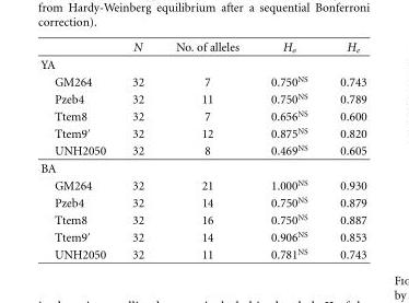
<table><thead><tr><td></td><td>N</td><td>No. of alleles</td><td>H<sub>o</sub></td><td>H<sub>e</sub></td></tr></thead><tbody><tr><td colspan="5">YA</td></tr><tr><td>GM264</td><td>32</td><td>7</td><td>0.750<sup>NS</sup></td><td>0.743</td></tr><tr><td>Pzeb4</td><td>32</td><td>11</td><td>0.750<sup>NS</sup></td><td>0.789</td></tr><tr><td>Ttem8</td><td>32</td><td>7</td><td>0.656<sup>NS</sup></td><td>0.600</td></tr><tr><td>Ttem9′</td><td>32</td><td>12</td><td>0.875<sup>NS</sup></td><td>0.820</td></tr><tr><td>UNH2050</td><td>32</td><td>8</td><td>0.469<sup>NS</sup></td><td>0.605</td></tr><tr><td colspan="5">BA</td></tr><tr><td>GM264</td><td>32</td><td>21</td><td>1.000<sup>NS</sup></td><td>0.930</td></tr><tr><td>Pzeb4</td><td>32</td><td>14</td><td>0.750<sup>NS</sup></td><td>0.879</td></tr><tr><td>Ttem8</td><td>32</td><td>16</td><td>0.750<sup>NS</sup></td><td>0.887</td></tr><tr><td>Ttem9′</td><td>32</td><td>14</td><td>0.906<sup>NS</sup></td><td>0.853</td></tr><tr><td>UNH2050</td><td>32</td><td>11</td><td>0.781<sup>NS</sup></td><td>0.743</td></tr></tbody></table>